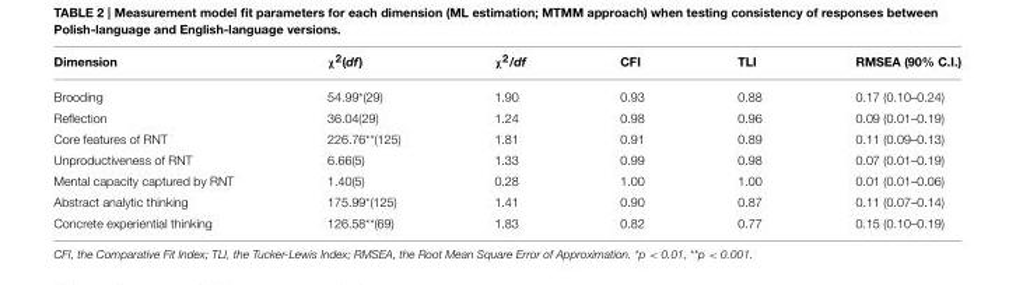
<table><thead><tr><td>Dimension</td><td>χ<sup>2</sup>(df)</td><td>χ<sup>2</sup>/df</td><td>CFI</td><td>TLI</td><td>RMSEA (90% C.I.)</td></tr></thead><tbody><tr><td>Brooding</td><td>54.99*(29)</td><td>1.90</td><td>0.93</td><td>0.88</td><td>0.17 (0.10–0.24)</td></tr><tr><td>Reflection</td><td>36.04(29)</td><td>1.24</td><td>0.98</td><td>0.96</td><td>0.09 (0.01–0.19)</td></tr><tr><td>Core features of RNT</td><td>226.76**(125)</td><td>1.81</td><td>0.91</td><td>0.89</td><td>0.11 (0.09–0.13)</td></tr><tr><td>Unproductiveness of RNT</td><td>6.66(5)</td><td>1.33</td><td>0.99</td><td>0.98</td><td>0.07 (0.01–0.19)</td></tr><tr><td>Mental capacity captured by RNT</td><td>1.40(5)</td><td>0.28</td><td>1.00</td><td>1.00</td><td>0.01 (0.01–0.06)</td></tr><tr><td>Abstract analytic thinking</td><td>175.99*(125)</td><td>1.41</td><td>0.90</td><td>0.87</td><td>0.11 (0.07–0.14)</td></tr><tr><td>Concrete experiential thinking</td><td>126.58**(69)</td><td>1.83</td><td>0.82</td><td>0.77</td><td>0.15 (0.10–0.19)</td></tr></tbody></table>